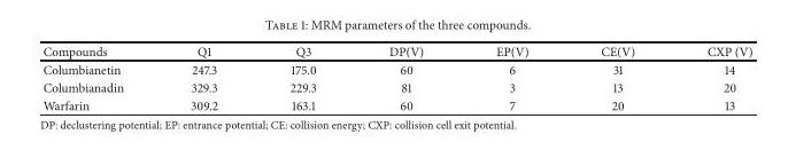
<table><thead><tr><td>Compounds</td><td>Q1</td><td>Q3</td><td>DP(V)</td><td>EP(V)</td><td>CE(V)</td><td>CXP (V)</td></tr></thead><tbody><tr><td>Columbianetin</td><td>247.3</td><td>175.0</td><td>60</td><td>6</td><td>31</td><td>14</td></tr><tr><td>Columbianadin</td><td>329.3</td><td>229.3</td><td>81</td><td>3</td><td>13</td><td>20</td></tr><tr><td>Warfarin</td><td>309.2</td><td>163.1</td><td>60</td><td>7</td><td>20</td><td>13</td></tr></tbody></table>